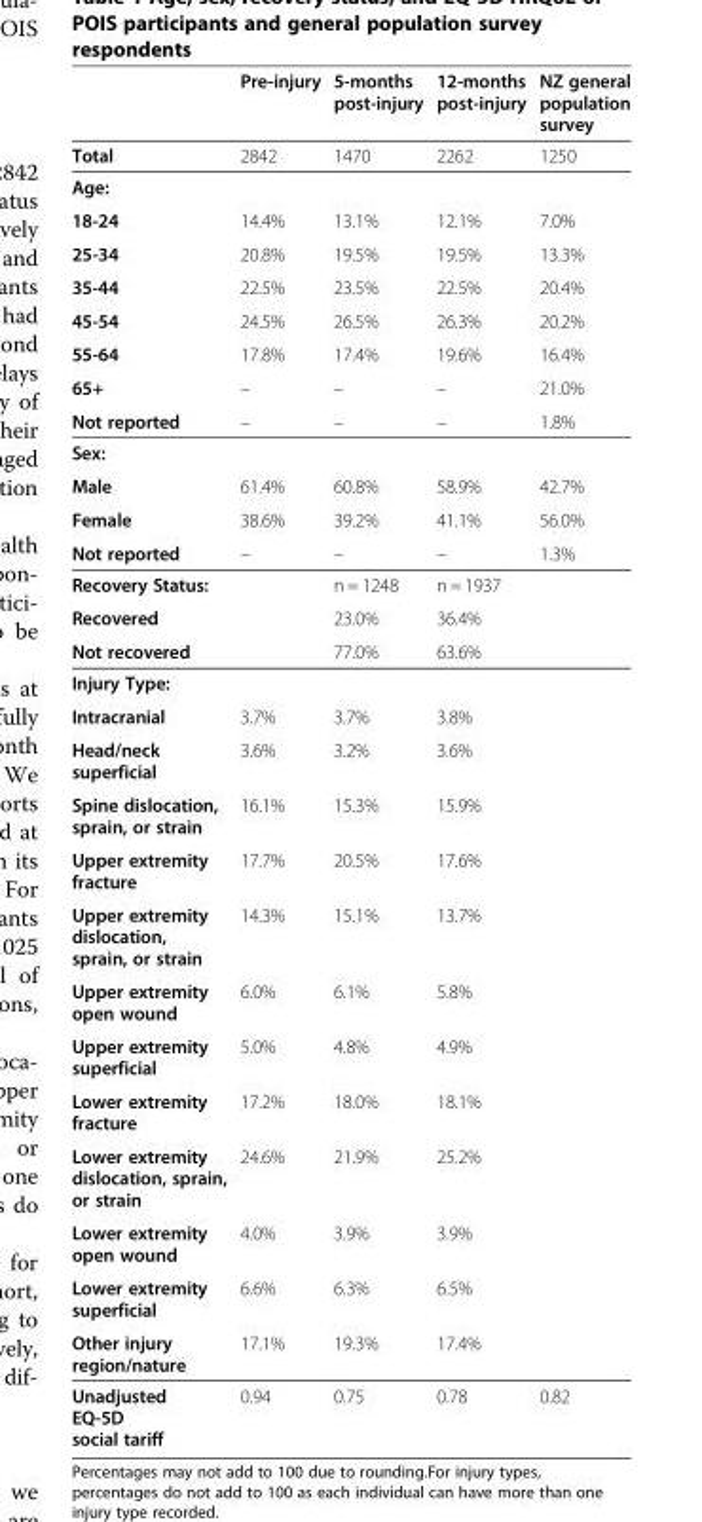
<table><thead><tr><td></td><td>Pre-injury</td><td>5-months post-injury</td><td>12-months post-injury</td><td>NZ general population survey</td></tr></thead><tbody><tr><td>Total</td><td>2842</td><td>1470</td><td>2262</td><td>1250</td></tr><tr><td colspan="5">Age:</td></tr><tr><td>18-24</td><td>14.4%</td><td>13.1%</td><td>12.1%</td><td>7.0%</td></tr><tr><td>25-34</td><td>20.8%</td><td>19.5%</td><td>19.5%</td><td>13.3%</td></tr><tr><td>35-44</td><td>22.5%</td><td>23.5%</td><td>22.5%</td><td>20.4%</td></tr><tr><td>45-54</td><td>24.5%</td><td>26.5%</td><td>26.3%</td><td>20.2%</td></tr><tr><td>55-64</td><td>17.8%</td><td>17.4%</td><td>19.6%</td><td>16.4%</td></tr><tr><td>65+</td><td>–</td><td>–</td><td>–</td><td>21.0%</td></tr><tr><td>Not reported</td><td>–</td><td>–</td><td>–</td><td>1.8%</td></tr><tr><td colspan="5">Sex:</td></tr><tr><td>Male</td><td>61.4%</td><td>60.8%</td><td>58.9%</td><td>42.7%</td></tr><tr><td>Female</td><td>38.6%</td><td>39.2%</td><td>41.1%</td><td>56.0%</td></tr><tr><td>Not reported</td><td>–</td><td>–</td><td>–</td><td>1.3%</td></tr><tr><td>Recovery Status:</td><td></td><td>n = 1248</td><td>n = 1937</td><td></td></tr><tr><td>Recovered</td><td></td><td>23.0%</td><td>36.4%</td><td></td></tr><tr><td>Not recovered</td><td></td><td>77.0%</td><td>63.6%</td><td></td></tr><tr><td colspan="5">Injury Type:</td></tr><tr><td>Intracranial</td><td>3.7%</td><td>3.7%</td><td>3.8%</td><td></td></tr><tr><td>Head/neck superficial</td><td>3.6%</td><td>3.2%</td><td>3.6%</td><td></td></tr><tr><td>Spine dislocation, sprain, or strain</td><td>16.1%</td><td>15.3%</td><td>15.9%</td><td></td></tr><tr><td>Upper extremity fracture</td><td>17.7%</td><td>20.5%</td><td>17.6%</td><td></td></tr><tr><td>Upper extremity dislocation, sprain, or strain</td><td>14.3%</td><td>15.1%</td><td>13.7%</td><td></td></tr><tr><td>Upper extremity open wound</td><td>6.0%</td><td>6.1%</td><td>5.8%</td><td></td></tr><tr><td>Upper extremity superficial</td><td>5.0%</td><td>4.8%</td><td>4.9%</td><td></td></tr><tr><td>Lower extremity fracture</td><td>17.2%</td><td>18.0%</td><td>18.1%</td><td></td></tr><tr><td>Lower extremity dislocation, sprain, or strain</td><td>24.6%</td><td>21.9%</td><td>25.2%</td><td></td></tr><tr><td>Lower extremity open wound</td><td>4.0%</td><td>3.9%</td><td>3.9%</td><td></td></tr><tr><td>Lower extremity superficial</td><td>6.6%</td><td>6.3%</td><td>6.5%</td><td></td></tr><tr><td>Other injury region/nature</td><td>17.1%</td><td>19.3%</td><td>17.4%</td><td></td></tr><tr><td>Unadjusted EQ-5D social tariff</td><td>0.94</td><td>0.75</td><td>0.78</td><td>0.82</td></tr></tbody></table>